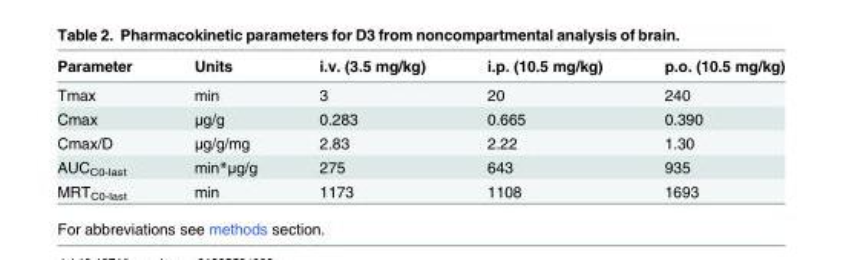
<table><thead><tr><td>Parameter</td><td>Units</td><td>i.v. (3.5 mg/kg)</td><td>i.p. (10.5 mg/kg)</td><td>p.o. (10.5 mg/kg)</td></tr></thead><tbody><tr><td>Tmax</td><td>min</td><td>3</td><td>20</td><td>240</td></tr><tr><td>Cmax</td><td>μg/g</td><td>0.283</td><td>0.665</td><td>0.390</td></tr><tr><td>Cmax/D</td><td>μg/g/mg</td><td>2.83</td><td>2.22</td><td>1.30</td></tr><tr><td>AUC<sub>C0-last</sub></td><td>min*μg/g</td><td>275</td><td>643</td><td>935</td></tr><tr><td>MRT<sub>C0-last</sub></td><td>min</td><td>1173</td><td>1108</td><td>1693</td></tr></tbody></table>